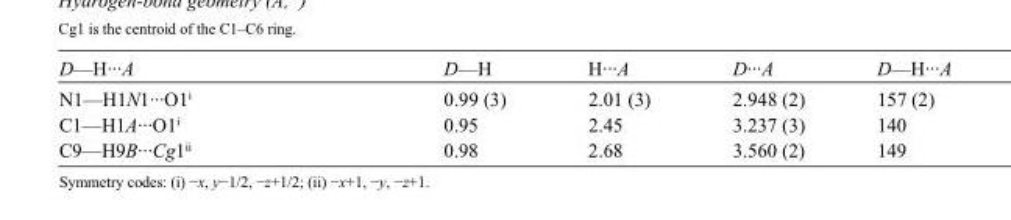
<table><tbody><tr><td>D—H···A</td><td>D—H</td><td>H···A</td><td>D···A</td><td>D—H···A</td></tr><tr><td>N1—H1N1···O1<sup>i</sup></td><td>0.99 (3)</td><td>2.01 (3)</td><td>2.948 (2)</td><td>157 (2)</td></tr><tr><td>C1—H1A···O1<sup>i</sup></td><td>0.95</td><td>2.45</td><td>3.237 (3)</td><td>140</td></tr><tr><td>C9—H9B···Cg1<sup>ii</sup></td><td>0.98</td><td>2.68</td><td>3.560 (2)</td><td>149</td></tr></tbody></table>